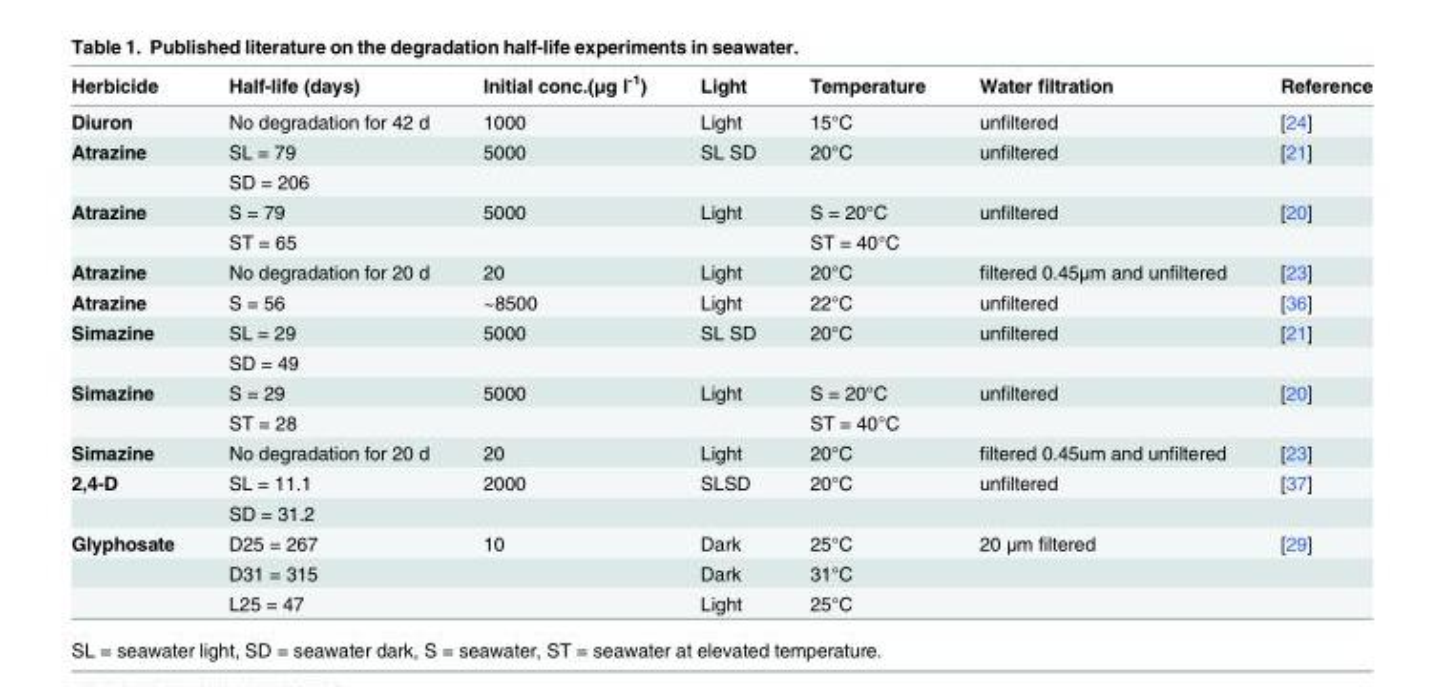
<table><thead><tr><td>Herbicide</td><td>Half-life (days)</td><td>Initial conc.(μg l<sup>-1</sup>)</td><td>Light</td><td>Temperature</td><td>Water filtration</td><td>Reference</td></tr></thead><tbody><tr><td>Diuron</td><td>No degradation for 42 d</td><td>1000</td><td>Light</td><td>15°C</td><td>unfiltered</td><td>[24]</td></tr><tr><td rowspan="2">Atrazine</td><td>SL = 79</td><td>5000</td><td>SL SD</td><td>20°C</td><td>unfiltered</td><td>[21]</td></tr><tr><td>SD = 206</td><td></td><td></td><td></td><td></td><td></td></tr><tr><td rowspan="2">Atrazine</td><td>S = 79</td><td>5000</td><td>Light</td><td>S = 20°C</td><td>unfiltered</td><td>[20]</td></tr><tr><td>ST = 65</td><td></td><td></td><td>ST = 40°C</td><td></td><td></td></tr><tr><td>Atrazine</td><td>No degradation for 20 d</td><td>20</td><td>Light</td><td>20°C</td><td>filtered 0.45μm and unfiltered</td><td>[23]</td></tr><tr><td>Atrazine</td><td>S = 56</td><td>~8500</td><td>Light</td><td>22°C</td><td>unfiltered</td><td>[36]</td></tr><tr><td rowspan="2">Simazine</td><td>SL = 29</td><td>5000</td><td>SL SD</td><td>20°C</td><td>unfiltered</td><td>[21]</td></tr><tr><td>SD = 49</td><td></td><td></td><td></td><td></td><td></td></tr><tr><td rowspan="2">Simazine</td><td>S = 29</td><td>5000</td><td>Light</td><td>S = 20°C</td><td>unfiltered</td><td>[20]</td></tr><tr><td>ST = 28</td><td></td><td></td><td>ST = 40°C</td><td></td><td></td></tr><tr><td>Simazine</td><td>No degradation for 20 d</td><td>20</td><td>Light</td><td>20°C</td><td>filtered 0.45um and unfiltered</td><td>[23]</td></tr><tr><td rowspan="2">2,4-D</td><td>SL = 11.1</td><td>2000</td><td>SLSD</td><td>20°C</td><td>unfiltered</td><td>[37]</td></tr><tr><td>SD = 31.2</td><td></td><td></td><td></td><td></td><td></td></tr><tr><td rowspan="3">Glyphosate</td><td>D25 = 267</td><td>10</td><td>Dark</td><td>25°C</td><td>20 μm filtered</td><td>[29]</td></tr><tr><td>D31 = 315</td><td></td><td>Dark</td><td>31°C</td><td></td><td></td></tr><tr><td>L25 = 47</td><td></td><td>Light</td><td>25°C</td><td></td><td></td></tr></tbody></table>